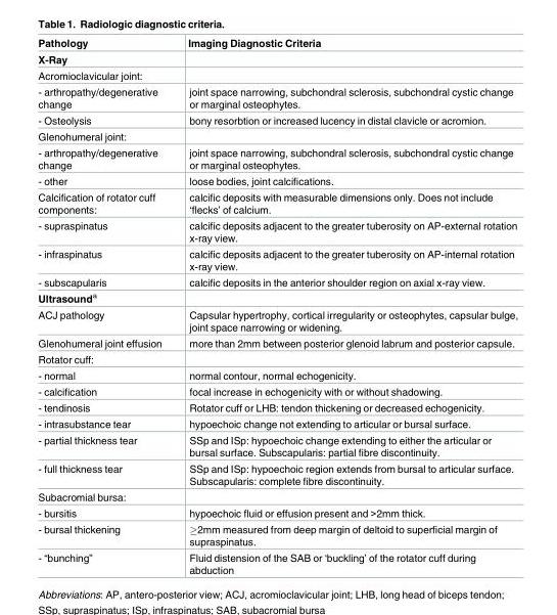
<table><thead><tr><td>Pathology</td><td>Imaging Diagnostic Criteria</td></tr></thead><tbody><tr><td colspan="2">X-Ray</td></tr><tr><td colspan="2">Acromioclavicular joint:</td></tr><tr><td>- arthropathy/degenerative change</td><td>joint space narrowing, subchondral sclerosis, subchondral cystic change or marginal osteophytes.</td></tr><tr><td>- Osteolysis</td><td>bony resorbtion or increased lucency in distal clavicle or acromion.</td></tr><tr><td colspan="2">Glenohumeral joint:</td></tr><tr><td>- arthropathy/degenerative change</td><td>joint space narrowing, subchondral sclerosis, subchondral cystic change or marginal osteophytes.</td></tr><tr><td>- other</td><td>loose bodies, joint calcifications.</td></tr><tr><td>Calcification of rotator cuff components:</td><td>calcific deposits with measurable dimensions only. Does not include ‘flecks’ of calcium.</td></tr><tr><td>- supraspinatus</td><td>calcific deposits adjacent to the greater tuberosity on AP-external rotation x-ray view.</td></tr><tr><td>- infraspinatus</td><td>calcific deposits adjacent to the greater tuberosity on AP-internal rotation x-ray view.</td></tr><tr><td>- subscapularis</td><td>calcific deposits in the anterior shoulder region on axial x-ray view.</td></tr><tr><td colspan="2">Ultrasound<sup>a</sup></td></tr><tr><td>ACJ pathology</td><td>Capsular hypertrophy, cortical irregularity or osteophytes, capsular bulge, joint space narrowing or widening.</td></tr><tr><td>Glenohumeral joint effusion</td><td>more than 2mm between posterior glenoid labrum and posterior capsule.</td></tr><tr><td colspan="2">Rotator cuff:</td></tr><tr><td>- normal</td><td>normal contour, normal echogenicity.</td></tr><tr><td>- calcification</td><td>focal increase in echogenicity with or without shadowing.</td></tr><tr><td>- tendinosis</td><td>Rotator cuff or LHB: tendon thickening or decreased echogenicity.</td></tr><tr><td>- intrasubstance tear</td><td>hypoechoic change not extending to articular or bursal surface.</td></tr><tr><td>- partial thickness tear</td><td>SSp and ISp: hypoechoic change extending to either the articular or bursal surface. Subscapularis: partial fibre discontinuity.</td></tr><tr><td>- full thickness tear</td><td>SSp and ISp: hypoechoic region extends from bursal to articular surface. Subscapularis: complete fibre discontinuity.</td></tr><tr><td colspan="2">Subacromial bursa:</td></tr><tr><td>- bursitis</td><td>hypoechoic fluid or effusion present and &gt;2mm thick.</td></tr><tr><td>- bursal thickening</td><td>≥2mm measured from deep margin of deltoid to superficial margin of supraspinatus.</td></tr><tr><td>- “bunching”</td><td>Fluid distension of the SAB or ‘buckling’ of the rotator cuff during abduction</td></tr></tbody></table>